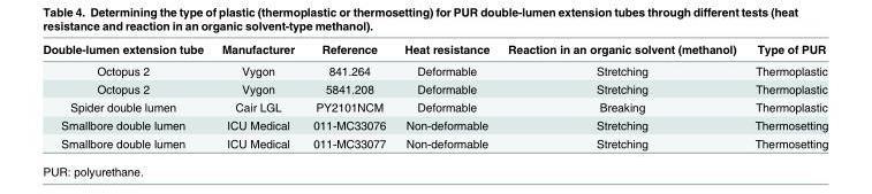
<table><thead><tr><td>Double-lumen extension tube</td><td>Manufacturer</td><td>Reference</td><td>Heat resistance</td><td>Reaction in an organic solvent (methanol)</td><td>Type of PUR</td></tr></thead><tbody><tr><td>Octopus 2</td><td>Vygon</td><td>841.264</td><td>Deformable</td><td>Stretching</td><td>Thermoplastic</td></tr><tr><td>Octopus 2</td><td>Vygon</td><td>5841.208</td><td>Deformable</td><td>Stretching</td><td>Thermoplastic</td></tr><tr><td>Spider double lumen</td><td>Cair LGL</td><td>PY2101NCM</td><td>Deformable</td><td>Breaking</td><td>Thermoplastic</td></tr><tr><td>Smallbore double lumen</td><td>ICU Medical</td><td>011-MC33076</td><td>Non-deformable</td><td>Stretching</td><td>Thermosetting</td></tr><tr><td>Smallbore double lumen</td><td>ICU Medical</td><td>011-MC33077</td><td>Non-deformable</td><td>Stretching</td><td>Thermosetting</td></tr></tbody></table>